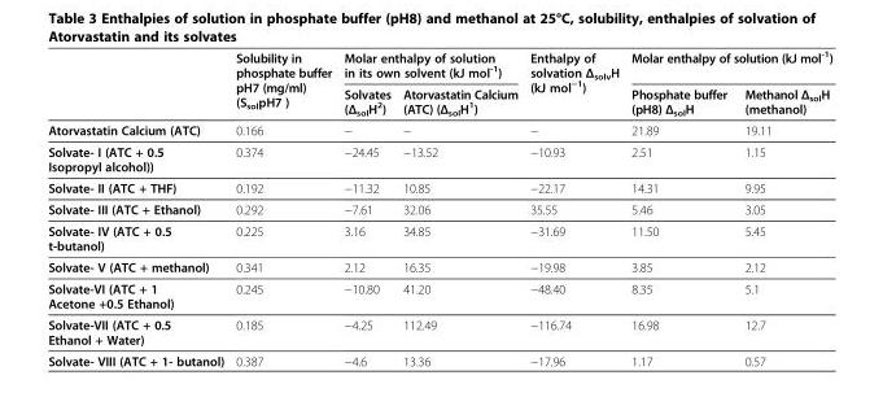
<table><thead><tr><td rowspan="2"></td><td rowspan="2">Solubility in phosphate buffer pH7 (mg/ml) (S<sub>sol</sub>pH7 )</td><td colspan="2">Molar enthalpy of solution in its own solvent (kJ mol<sup>-1</sup>)</td><td rowspan="2">Enthalpy of solvation Δ<sub>solv</sub>H (kJ mol<sup>−1</sup>)</td><td colspan="2">Molar enthalpy of solution (kJ mol<sup>-1</sup>)</td></tr><tr><td>Solvates (Δ<sub>sol</sub>H<sup>2</sup>)</td><td>Atorvastatin Calcium (ATC) (Δ<sub>sol</sub>H<sup>1</sup>)</td><td>Phosphate buffer (pH8) Δ<sub>sol</sub>H</td><td>Methanol Δ<sub>sol</sub>H (methanol)</td></tr></thead><tbody><tr><td>Atorvastatin Calcium (ATC)</td><td>0.166</td><td>−</td><td>−</td><td>−</td><td>21.89</td><td>19.11</td></tr><tr><td>Solvate- I (ATC + 0.5 Isopropyl alcohol))</td><td>0.374</td><td>−24.45</td><td>−13.52</td><td>−10.93</td><td>2.51</td><td>1.15</td></tr><tr><td>Solvate- II (ATC + THF)</td><td>0.192</td><td>−11.32</td><td>10.85</td><td>−22.17</td><td>14.31</td><td>9.95</td></tr><tr><td>Solvate- III (ATC + Ethanol)</td><td>0.292</td><td>−7.61</td><td>32.06</td><td>35.55</td><td>5.46</td><td>3.05</td></tr><tr><td>Solvate- IV (ATC + 0.5 t-butanol)</td><td>0.225</td><td>3.16</td><td>34.85</td><td>−31.69</td><td>11.50</td><td>5.45</td></tr><tr><td>Solvate- V (ATC + methanol)</td><td>0.341</td><td>2.12</td><td>16.35</td><td>−19.98</td><td>3.85</td><td>2.12</td></tr><tr><td>Solvate-VI (ATC + 1 Acetone +0.5 Ethanol)</td><td>0.245</td><td>−10.80</td><td>41.20</td><td>−48.40</td><td>8.35</td><td>5.1</td></tr><tr><td>Solvate-VII (ATC + 0.5 Ethanol + Water)</td><td>0.185</td><td>−4.25</td><td>112.49</td><td>−116.74</td><td>16.98</td><td>12.7</td></tr><tr><td>Solvate- VIII (ATC + 1- butanol)</td><td>0.387</td><td>−4.6</td><td>13.36</td><td>−17.96</td><td>1.17</td><td>0.57</td></tr></tbody></table>